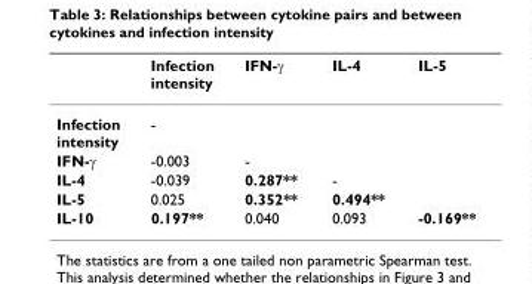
<table><thead><tr><td></td><td>Infection intensity</td><td>IFN-γ</td><td>IL-4</td><td>IL-5</td></tr></thead><tbody><tr><td>Infection intensity</td><td>-</td><td></td><td></td><td></td></tr><tr><td>IFN-γ</td><td>-0.003</td><td>-</td><td></td><td></td></tr><tr><td>IL-4</td><td>-0.039</td><td>0.287**</td><td>-</td><td></td></tr><tr><td>IL-5</td><td>0.025</td><td>0.352**</td><td>0.494**</td><td></td></tr><tr><td>IL-10</td><td>0.197**</td><td>0.040</td><td>0.093</td><td>-0.169**</td></tr></tbody></table>